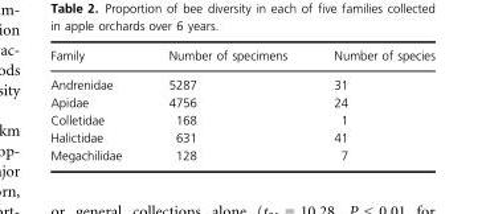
<table><thead><tr><td>Family</td><td>Number of specimens</td><td>Number of species</td></tr></thead><tbody><tr><td>Andrenidae</td><td>5287</td><td>31</td></tr><tr><td>Apidae</td><td>4756</td><td>24</td></tr><tr><td>Colletidae</td><td>168</td><td>1</td></tr><tr><td>Halictidae</td><td>631</td><td>41</td></tr><tr><td>Megachilidae</td><td>128</td><td>7</td></tr></tbody></table>